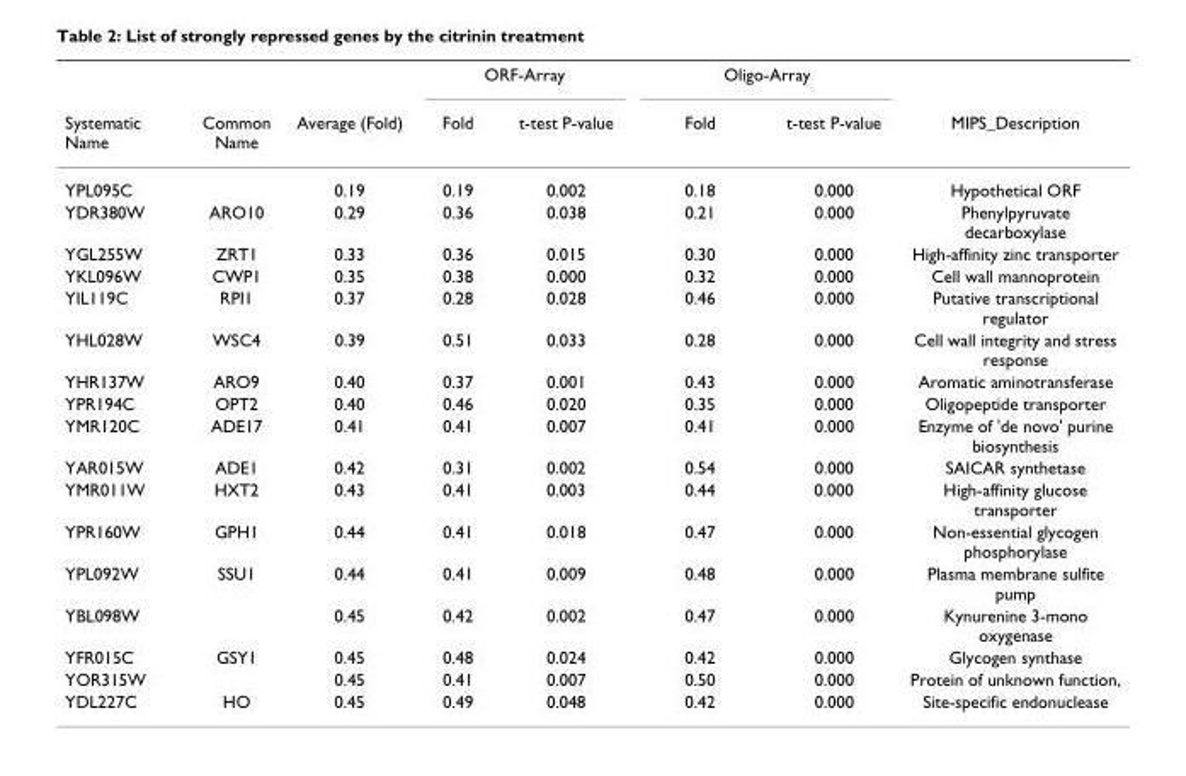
<table><thead><tr><td rowspan="2">Systematic Name</td><td rowspan="2">Common Name</td><td rowspan="2">Average (Fold)</td><td colspan="2">ORF-Array</td><td colspan="2">Oligo-Array</td><td rowspan="2">MIPS_Description</td></tr><tr><td>Fold</td><td>t-test P-value</td><td>Fold</td><td>t-test P-value</td></tr></thead><tbody><tr><td>YPL095C</td><td></td><td>0.19</td><td>0.19</td><td>0.002</td><td>0.18</td><td>0.000</td><td>Hypothetical ORF</td></tr><tr><td>YDR380W</td><td>ARO10</td><td>0.29</td><td>0.36</td><td>0.038</td><td>0.21</td><td>0.000</td><td>Phenylpyruvate decarboxylase</td></tr><tr><td>YGL255W</td><td>ZRT1</td><td>0.33</td><td>0.36</td><td>0.015</td><td>0.30</td><td>0.000</td><td>High-affinity zinc transporter</td></tr><tr><td>YKL096W</td><td>CWP1</td><td>0.35</td><td>0.38</td><td>0.000</td><td>0.32</td><td>0.000</td><td>Cell wall mannoprotein</td></tr><tr><td>YIL119C</td><td>RPI1</td><td>0.37</td><td>0.28</td><td>0.028</td><td>0.46</td><td>0.000</td><td>Putative transcriptional regulator</td></tr><tr><td>YHL028W</td><td>WSC4</td><td>0.39</td><td>0.51</td><td>0.033</td><td>0.28</td><td>0.000</td><td>Cell wall integrity and stress response</td></tr><tr><td>YHR137W</td><td>ARO9</td><td>0.40</td><td>0.37</td><td>0.001</td><td>0.43</td><td>0.000</td><td>Aromatic aminotransferase</td></tr><tr><td>YPR194C</td><td>OPT2</td><td>0.40</td><td>0.46</td><td>0.020</td><td>0.35</td><td>0.000</td><td>Oligopeptide transporter</td></tr><tr><td>YMR120C</td><td>ADE17</td><td>0.41</td><td>0.41</td><td>0.007</td><td>0.41</td><td>0.000</td><td>Enzyme of &#x27;de novo&#x27; purine biosynthesis</td></tr><tr><td>YAR015W</td><td>ADE1</td><td>0.42</td><td>0.31</td><td>0.002</td><td>0.54</td><td>0.000</td><td>SAICAR synthetase</td></tr><tr><td>YMR011W</td><td>HXT2</td><td>0.43</td><td>0.41</td><td>0.003</td><td>0.44</td><td>0.000</td><td>High-affinity glucose transporter</td></tr><tr><td>YPR160W</td><td>GPH1</td><td>0.44</td><td>0.41</td><td>0.018</td><td>0.47</td><td>0.000</td><td>Non-essential glycogen phosphorylase</td></tr><tr><td>YPL092W</td><td>SSU1</td><td>0.44</td><td>0.41</td><td>0.009</td><td>0.48</td><td>0.000</td><td>Plasma membrane sulfite pump</td></tr><tr><td>YBL098W</td><td></td><td>0.45</td><td>0.42</td><td>0.002</td><td>0.47</td><td>0.000</td><td>Kynurenine 3-mono oxygenase</td></tr><tr><td>YFR015C</td><td>GSY1</td><td>0.45</td><td>0.48</td><td>0.024</td><td>0.42</td><td>0.000</td><td>Glycogen synthase</td></tr><tr><td>YOR315W</td><td></td><td>0.45</td><td>0.41</td><td>0.007</td><td>0.50</td><td>0.000</td><td>Protein of unknown function,</td></tr><tr><td>YDL227C</td><td>HO</td><td>0.45</td><td>0.49</td><td>0.048</td><td>0.42</td><td>0.000</td><td>Site-specific endonuclease</td></tr></tbody></table>